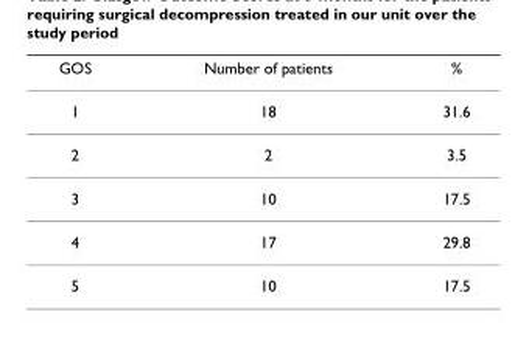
<table><thead><tr><td>GOS</td><td>Number of patients</td><td>%</td></tr></thead><tbody><tr><td>1</td><td>18</td><td>31.6</td></tr><tr><td>2</td><td>2</td><td>3.5</td></tr><tr><td>3</td><td>10</td><td>17.5</td></tr><tr><td>4</td><td>17</td><td>29.8</td></tr><tr><td>5</td><td>10</td><td>17.5</td></tr></tbody></table>